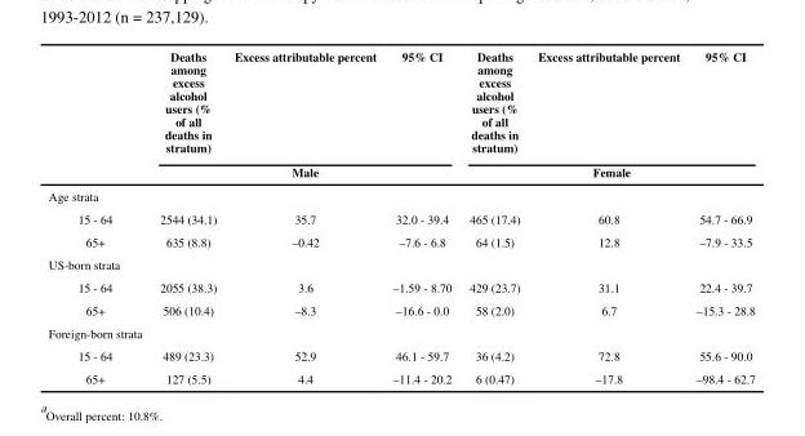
<table><thead><tr><td rowspan="2"></td><td>Deaths among excess alcohol users (% of all deaths in stratum)</td><td>Excess attributable percent</td><td>95% CI</td><td>Deaths among excess alcohol users (% of all deaths in stratum)</td><td>Excess attributable percent</td><td>95% CI</td></tr><tr><td colspan="3">Male</td><td colspan="3">Female</td></tr></thead><tbody><tr><td colspan="7">Age strata</td></tr><tr><td>15 - 64</td><td>2544 (34.1)</td><td>35.7</td><td>32.0 - 39.4</td><td>465 (17.4)</td><td>60.8</td><td>54.7 - 66.9</td></tr><tr><td>65+</td><td>635 (8.8)</td><td>–0.42</td><td>–7.6 - 6.8</td><td>64 (1.5)</td><td>12.8</td><td>–7.9 - 33.5</td></tr><tr><td colspan="7">US-born strata</td></tr><tr><td>15 - 64</td><td>2055 (38.3)</td><td>3.6</td><td>–1.59 - 8.70</td><td>429 (23.7)</td><td>31.1</td><td>22.4 - 39.7</td></tr><tr><td>65+</td><td>506 (10.4)</td><td>–8.3</td><td>–16.6 - 0.0</td><td>58 (2.0)</td><td>6.7</td><td>–15.3 - 28.8</td></tr><tr><td colspan="7">Foreign-born strata</td></tr><tr><td>15 - 64</td><td>489 (23.3)</td><td>52.9</td><td>46.1 - 59.7</td><td>36 (4.2)</td><td>72.8</td><td>55.6 - 90.0</td></tr><tr><td>65+</td><td>127 (5.5)</td><td>4.4</td><td>–11.4 - 20.2</td><td>6 (0.47)</td><td>–17.8</td><td>–98.4 - 62.7</td></tr></tbody></table>